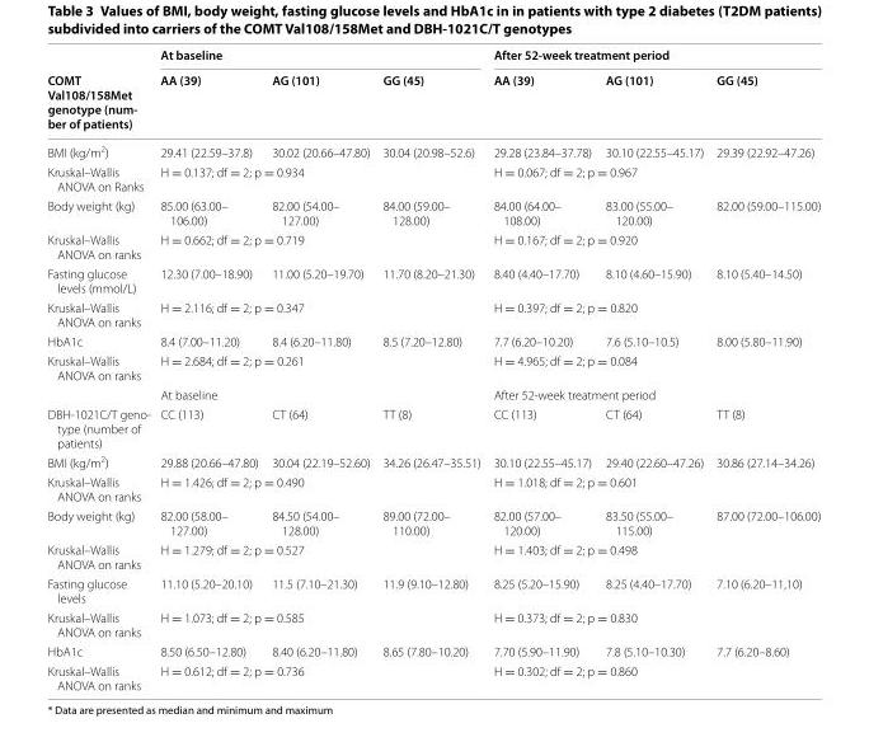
<table><thead><tr><td rowspan="2">COMT Val108/158Met genotype (num‑ ber of patients)</td><td colspan="3">At baseline</td><td colspan="3">After 52‑week treatment period</td></tr><tr><td>AA (39)</td><td>AG (101)</td><td>GG (45)</td><td>AA (39)</td><td>AG (101)</td><td>GG (45)</td></tr></thead><tbody><tr><td>BMI (kg/m<sup>2</sup>)</td><td>29.41 (22.59–37.8)</td><td>30.02 (20.66–47.80)</td><td>30.04 (20.98–52.6)</td><td>29.28 (23.84–37.78)</td><td>30.10 (22.55–45.17)</td><td>29.39 (22.92–47.26)</td></tr><tr><td>Kruskal–Wallis ANOVA on Ranks</td><td colspan="3">H = 0.137; df = 2; p = 0.934</td><td colspan="3">H = 0.067; df = 2; p = 0.967</td></tr><tr><td>Body weight (kg)</td><td>85.00 (63.00– 106.00)</td><td>82.00 (54.00– 127.00)</td><td>84.00 (59.00– 128.00)</td><td>84.00 (64.00– 108.00)</td><td>83.00 (55.00– 120.00)</td><td>82.00 (59.00–115.00)</td></tr><tr><td>Kruskal–Wallis ANOVA on ranks</td><td colspan="3">H = 0.662; df = 2; p = 0.719</td><td colspan="3">H = 0.167; df = 2; p = 0.920</td></tr><tr><td>Fasting glucose levels (mmol/L)</td><td>12.30 (7.00–18.90)</td><td>11.00 (5.20–19.70)</td><td>11.70 (8.20–21.30)</td><td>8.40 (4.40–17.70)</td><td>8.10 (4.60–15.90)</td><td>8.10 (5.40–14.50)</td></tr><tr><td>Kruskal–Wallis ANOVA on ranks</td><td colspan="3">H = 2.116; df = 2; p = 0.347</td><td colspan="3">H = 0.397; df = 2; p = 0.820</td></tr><tr><td>HbA1c</td><td>8.4 (7.00–11.20)</td><td>8.4 (6.20–11.80)</td><td>8.5 (7.20–12.80)</td><td>7.7 (6.20–10.20)</td><td>7.6 (5.10–10.5)</td><td>8.00 (5.80–11.90)</td></tr><tr><td rowspan="2">Kruskal–Wallis ANOVA on ranks</td><td colspan="3">H = 2.684; df = 2; p = 0.261</td><td colspan="3">H = 4.965; df = 2; p = 0.084</td></tr><tr><td colspan="3">At baseline</td><td colspan="3">After 52‑week treatment period</td></tr><tr><td>DBH‑1021C/T geno‑ type (number of patients)</td><td>CC (113)</td><td>CT (64)</td><td>TT (8)</td><td>CC (113)</td><td>CT (64)</td><td>TT (8)</td></tr><tr><td>BMI (kg/m<sup>2</sup>)</td><td>29.88 (20.66–47.80)</td><td>30.04 (22.19–52.60)</td><td>34.26 (26.47–35.51)</td><td>30.10 (22.55–45.17)</td><td>29.40 (22.60–47.26)</td><td>30.86 (27.14–34.26)</td></tr><tr><td>Kruskal–Wallis ANOVA on ranks</td><td colspan="3">H = 1.426; df = 2; p = 0.490</td><td colspan="3">H = 1.018; df = 2; p = 0.601</td></tr><tr><td>Body weight (kg)</td><td>82.00 (58.00– 127.00)</td><td>84.50 (54.00– 128.00)</td><td>89.00 (72.00– 110.00)</td><td>82.00 (57.00– 120.00)</td><td>83.50 (55.00– 115.00)</td><td>87.00 (72.00–106.00)</td></tr><tr><td>Kruskal–Wallis ANOVA on ranks</td><td colspan="3">H = 1.279; df = 2; p = 0.527</td><td colspan="3">H = 1.403; df = 2; p = 0.498</td></tr><tr><td>Fasting glucose levels</td><td>11.10 (5.20–20.10)</td><td>11.5 (7.10–21.30)</td><td>11.9 (9.10–12.80)</td><td>8.25 (5.20–15.90)</td><td>8.25 (4.40–17.70)</td><td>7.10 (6.20–11,10)</td></tr><tr><td>Kruskal–Wallis ANOVA on ranks</td><td colspan="3">H = 1.073; df = 2; p = 0.585</td><td colspan="3">H = 0.373; df = 2; p = 0.830</td></tr><tr><td>HbA1c</td><td>8.50 (6.50–12.80)</td><td>8.40 (6.20–11.80)</td><td>8.65 (7.80–10.20)</td><td>7.70 (5.90–11.90)</td><td>7.8 (5.10–10.30)</td><td>7.7 (6.20–8.60)</td></tr><tr><td>Kruskal–Wallis ANOVA on ranks</td><td colspan="3">H = 0.612; df = 2; p = 0.736</td><td colspan="3">H = 0.302; df = 2; p = 0.860</td></tr></tbody></table>